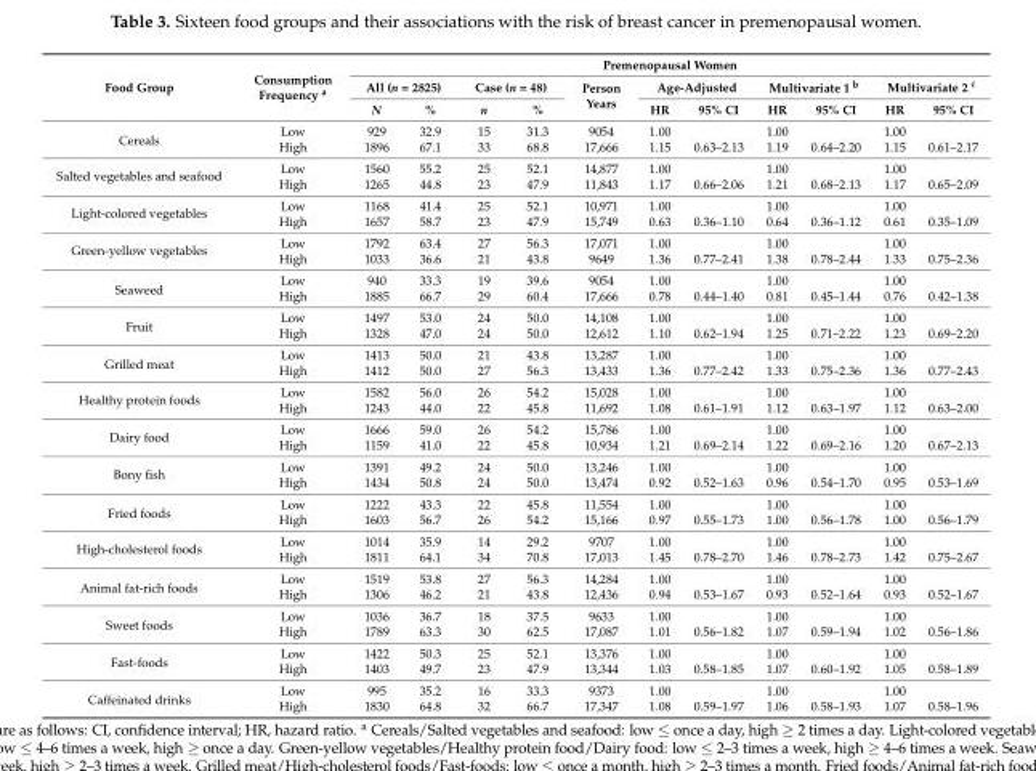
<table><thead><tr><td rowspan="3">Food Group</td><td rowspan="3">Consumption Frequency <sup>a</sup></td><td colspan="11">Premenopausal Women</td></tr><tr><td colspan="2">All (n = 2825)</td><td colspan="2">Case (n = 48)</td><td rowspan="2">Person Years</td><td colspan="2">Age-Adjusted</td><td colspan="2">Multivariate 1 <sup>b</sup></td><td colspan="2">Multivariate 2 <sup>c</sup></td></tr><tr><td>N</td><td>%</td><td>n</td><td>%</td><td>HR</td><td>95% CI</td><td>HR</td><td>95% CI</td><td>HR</td><td>95% CI</td></tr></thead><tbody><tr><td rowspan="2">Cereals</td><td>Low</td><td>929</td><td>32.9</td><td>15</td><td>31.3</td><td>9054</td><td>1.00</td><td></td><td>1.00</td><td></td><td>1.00</td><td></td></tr><tr><td>High</td><td>1896</td><td>67.1</td><td>33</td><td>68.8</td><td>17,666</td><td>1.15</td><td>0.63–2.13</td><td>1.19</td><td>0.64–2.20</td><td>1.15</td><td>0.61–2.17</td></tr><tr><td rowspan="2">Salted vegetables and seafood</td><td>Low</td><td>1560</td><td>55.2</td><td>25</td><td>52.1</td><td>14,877</td><td>1.00</td><td></td><td>1.00</td><td></td><td>1.00</td><td></td></tr><tr><td>High</td><td>1265</td><td>44.8</td><td>23</td><td>47.9</td><td>11,843</td><td>1.17</td><td>0.66–2.06</td><td>1.21</td><td>0.68–2.13</td><td>1.17</td><td>0.65–2.09</td></tr><tr><td rowspan="2">Light-colored vegetables</td><td>Low</td><td>1168</td><td>41.4</td><td>25</td><td>52.1</td><td>10,971</td><td>1.00</td><td></td><td>1.00</td><td></td><td>1.00</td><td></td></tr><tr><td>High</td><td>1657</td><td>58.7</td><td>23</td><td>47.9</td><td>15,749</td><td>0.63</td><td>0.36–1.10</td><td>0.64</td><td>0.36–1.12</td><td>0.61</td><td>0.35–1.09</td></tr><tr><td rowspan="2">Green-yellow vegetables</td><td>Low</td><td>1792</td><td>63.4</td><td>27</td><td>56.3</td><td>17,071</td><td>1.00</td><td></td><td>1.00</td><td></td><td>1.00</td><td></td></tr><tr><td>High</td><td>1033</td><td>36.6</td><td>21</td><td>43.8</td><td>9649</td><td>1.36</td><td>0.77–2.41</td><td>1.38</td><td>0.78–2.44</td><td>1.33</td><td>0.75–2.36</td></tr><tr><td rowspan="2">Seaweed</td><td>Low</td><td>940</td><td>33.3</td><td>19</td><td>39.6</td><td>9054</td><td>1.00</td><td></td><td>1.00</td><td></td><td>1.00</td><td></td></tr><tr><td>High</td><td>1885</td><td>66.7</td><td>29</td><td>60.4</td><td>17,666</td><td>0.78</td><td>0.44–1.40</td><td>0.81</td><td>0.45–1.44</td><td>0.76</td><td>0.42–1.38</td></tr><tr><td rowspan="2">Fruit</td><td>Low</td><td>1497</td><td>53.0</td><td>24</td><td>50.0</td><td>14,108</td><td>1.00</td><td></td><td>1.00</td><td></td><td>1.00</td><td></td></tr><tr><td>High</td><td>1328</td><td>47.0</td><td>24</td><td>50.0</td><td>12,612</td><td>1.10</td><td>0.62–1.94</td><td>1.25</td><td>0.71–2.22</td><td>1.23</td><td>0.69–2.20</td></tr><tr><td rowspan="2">Grilled meat</td><td>Low</td><td>1413</td><td>50.0</td><td>21</td><td>43.8</td><td>13,287</td><td>1.00</td><td></td><td>1.00</td><td></td><td>1.00</td><td></td></tr><tr><td>High</td><td>1412</td><td>50.0</td><td>27</td><td>56.3</td><td>13,433</td><td>1.36</td><td>0.77–2.42</td><td>1.33</td><td>0.75–2.36</td><td>1.36</td><td>0.77–2.43</td></tr><tr><td rowspan="2">Healthy protein foods</td><td>Low</td><td>1582</td><td>56.0</td><td>26</td><td>54.2</td><td>15,028</td><td>1.00</td><td></td><td>1.00</td><td></td><td>1.00</td><td></td></tr><tr><td>High</td><td>1243</td><td>44.0</td><td>22</td><td>45.8</td><td>11,692</td><td>1.08</td><td>0.61–1.91</td><td>1.12</td><td>0.63–1.97</td><td>1.12</td><td>0.63–2.00</td></tr><tr><td rowspan="2">Dairy food</td><td>Low</td><td>1666</td><td>59.0</td><td>26</td><td>54.2</td><td>15,786</td><td>1.00</td><td></td><td>1.00</td><td></td><td>1.00</td><td></td></tr><tr><td>High</td><td>1159</td><td>41.0</td><td>22</td><td>45.8</td><td>10,934</td><td>1.21</td><td>0.69–2.14</td><td>1.22</td><td>0.69–2.16</td><td>1.20</td><td>0.67–2.13</td></tr><tr><td rowspan="2">Bony fish</td><td>Low</td><td>1391</td><td>49.2</td><td>24</td><td>50.0</td><td>13,246</td><td>1.00</td><td></td><td>1.00</td><td></td><td>1.00</td><td></td></tr><tr><td>High</td><td>1434</td><td>50.8</td><td>24</td><td>50.0</td><td>13,474</td><td>0.92</td><td>0.52–1.63</td><td>0.96</td><td>0.54–1.70</td><td>0.95</td><td>0.53–1.69</td></tr><tr><td rowspan="2">Fried foods</td><td>Low</td><td>1222</td><td>43.3</td><td>22</td><td>45.8</td><td>11,554</td><td>1.00</td><td></td><td>1.00</td><td></td><td>1.00</td><td></td></tr><tr><td>High</td><td>1603</td><td>56.7</td><td>26</td><td>54.2</td><td>15,166</td><td>0.97</td><td>0.55–1.73</td><td>1.00</td><td>0.56–1.78</td><td>1.00</td><td>0.56–1.79</td></tr><tr><td rowspan="2">High-cholesterol foods</td><td>Low</td><td>1014</td><td>35.9</td><td>14</td><td>29.2</td><td>9707</td><td>1.00</td><td></td><td>1.00</td><td></td><td>1.00</td><td></td></tr><tr><td>High</td><td>1811</td><td>64.1</td><td>34</td><td>70.8</td><td>17,013</td><td>1.45</td><td>0.78–2.70</td><td>1.46</td><td>0.78–2.73</td><td>1.42</td><td>0.75–2.67</td></tr><tr><td rowspan="2">Animal fat-rich foods</td><td>Low</td><td>1519</td><td>53.8</td><td>27</td><td>56.3</td><td>14,284</td><td>1.00</td><td></td><td>1.00</td><td></td><td>1.00</td><td></td></tr><tr><td>High</td><td>1306</td><td>46.2</td><td>21</td><td>43.8</td><td>12,436</td><td>0.94</td><td>0.53–1.67</td><td>0.93</td><td>0.52–1.64</td><td>0.93</td><td>0.52–1.67</td></tr><tr><td rowspan="2">Sweet foods</td><td>Low</td><td>1036</td><td>36.7</td><td>18</td><td>37.5</td><td>9633</td><td>1.00</td><td></td><td>1.00</td><td></td><td>1.00</td><td></td></tr><tr><td>High</td><td>1789</td><td>63.3</td><td>30</td><td>62.5</td><td>17,087</td><td>1.01</td><td>0.56–1.82</td><td>1.07</td><td>0.59–1.94</td><td>1.02</td><td>0.56–1.86</td></tr><tr><td rowspan="2">Fast-foods</td><td>Low</td><td>1422</td><td>50.3</td><td>25</td><td>52.1</td><td>13,376</td><td>1.00</td><td></td><td>1.00</td><td></td><td>1.00</td><td></td></tr><tr><td>High</td><td>1403</td><td>49.7</td><td>23</td><td>47.9</td><td>13,344</td><td>1.03</td><td>0.58–1.85</td><td>1.07</td><td>0.60–1.92</td><td>1.05</td><td>0.58–1.89</td></tr><tr><td rowspan="2">Caffeinated drinks</td><td>Low</td><td>995</td><td>35.2</td><td>16</td><td>33.3</td><td>9373</td><td>1.00</td><td></td><td>1.00</td><td></td><td>1.00</td><td></td></tr><tr><td>High</td><td>1830</td><td>64.8</td><td>32</td><td>66.7</td><td>17,347</td><td>1.08</td><td>0.59–1.97</td><td>1.06</td><td>0.58–1.93</td><td>1.07</td><td>0.58–1.96</td></tr></tbody></table>